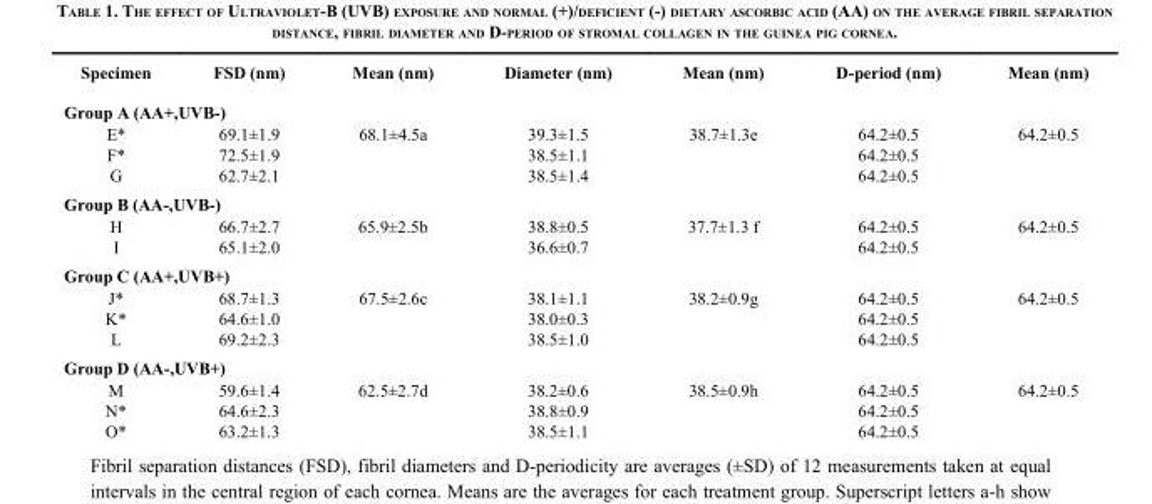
<table><thead><tr><td>Specimen</td><td>FSD (nm)</td><td>Mean (nm)</td><td>Diameter (nm)</td><td>Mean (nm)</td><td>D-period (nm)</td><td>Mean (nm)</td></tr></thead><tbody><tr><td colspan="7">Group A (AA+,UVB-)</td></tr><tr><td>E*</td><td>69.1±1.9</td><td>68.1±4.5a</td><td>39.3±1.5</td><td>38.7±1.3e</td><td>64.2±0.5</td><td>64.2±0.5</td></tr><tr><td>F*</td><td>72.5±1.9</td><td></td><td>38.5±1.1</td><td></td><td>64.2±0.5</td><td></td></tr><tr><td>G</td><td>62.7±2.1</td><td></td><td>38.5±1.4</td><td></td><td>64.2±0.5</td><td></td></tr><tr><td colspan="7">Group B (AA-,UVB-)</td></tr><tr><td>H</td><td>66.7±2.7</td><td>65.9±2.5b</td><td>38.8±0.5</td><td>37.7±1.3 f</td><td>64.2±0.5</td><td>64.2±0.5</td></tr><tr><td>I</td><td>65.1±2.0</td><td></td><td>36.6±0.7</td><td></td><td>64.2±0.5</td><td></td></tr><tr><td colspan="7">Group C (AA+,UVB+)</td></tr><tr><td>J*</td><td>68.7±1.3</td><td>67.5±2.6c</td><td>38.1±1.1</td><td>38.2±0.9g</td><td>64.2±0.5</td><td>64.2±0.5</td></tr><tr><td>K*</td><td>64.6±1.0</td><td></td><td>38.0±0.3</td><td></td><td>64.2±0.5</td><td></td></tr><tr><td>L</td><td>69.2±2.3</td><td></td><td>38.5±1.0</td><td></td><td>64.2±0.5</td><td></td></tr><tr><td colspan="7">Group D (AA-,UVB+)</td></tr><tr><td>M</td><td>59.6±1.4</td><td>62.5±2.7d</td><td>38.2±0.6</td><td>38.5±0.9h</td><td>64.2±0.5</td><td>64.2±0.5</td></tr><tr><td>N*</td><td>64.6±2.3</td><td></td><td>38.8±0.9</td><td></td><td>64.2±0.5</td><td></td></tr><tr><td>O*</td><td>63.2±1.3</td><td></td><td>38.5±1.1</td><td></td><td>64.2±0.5</td><td></td></tr></tbody></table>